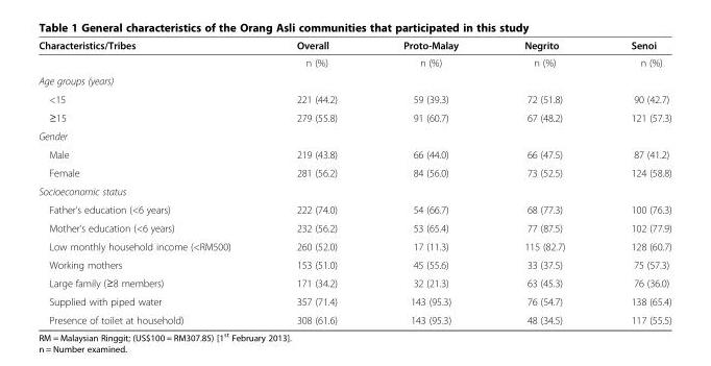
<table><thead><tr><td>Characteristics/Tribes</td><td>Overall</td><td>Proto-Malay</td><td>Negrito</td><td>Senoi</td></tr></thead><tbody><tr><td></td><td>n (%)</td><td>n (%)</td><td>n (%)</td><td>n (%)</td></tr><tr><td colspan="5">Age groups (years)</td></tr><tr><td>&lt;15</td><td>221 (44.2)</td><td>59 (39.3)</td><td>72 (51.8)</td><td>90 (42.7)</td></tr><tr><td>≥15</td><td>279 (55.8)</td><td>91 (60.7)</td><td>67 (48.2)</td><td>121 (57.3)</td></tr><tr><td colspan="5">Gender</td></tr><tr><td>Male</td><td>219 (43.8)</td><td>66 (44.0)</td><td>66 (47.5)</td><td>87 (41.2)</td></tr><tr><td>Female</td><td>281 (56.2)</td><td>84 (56.0)</td><td>73 (52.5)</td><td>124 (58.8)</td></tr><tr><td colspan="5">Socioeconomic status</td></tr><tr><td>Father’s education (&lt;6 years)</td><td>222 (74.0)</td><td>54 (66.7)</td><td>68 (77.3)</td><td>100 (76.3)</td></tr><tr><td>Mother’s education (&lt;6 years)</td><td>232 (56.2)</td><td>53 (65.4)</td><td>77 (87.5)</td><td>102 (77.9)</td></tr><tr><td>Low monthly household income (&lt;RM500)</td><td>260 (52.0)</td><td>17 (11.3)</td><td>115 (82.7)</td><td>128 (60.7)</td></tr><tr><td>Working mothers</td><td>153 (51.0)</td><td>45 (55.6)</td><td>33 (37.5)</td><td>75 (57.3)</td></tr><tr><td>Large family (≥8 members)</td><td>171 (34.2)</td><td>32 (21.3)</td><td>63 (45.3)</td><td>76 (36.0)</td></tr><tr><td>Supplied with piped water</td><td>357 (71.4)</td><td>143 (95.3)</td><td>76 (54.7)</td><td>138 (65.4)</td></tr><tr><td>Presence of toilet at household)</td><td>308 (61.6)</td><td>143 (95.3)</td><td>48 (34.5)</td><td>117 (55.5)</td></tr></tbody></table>